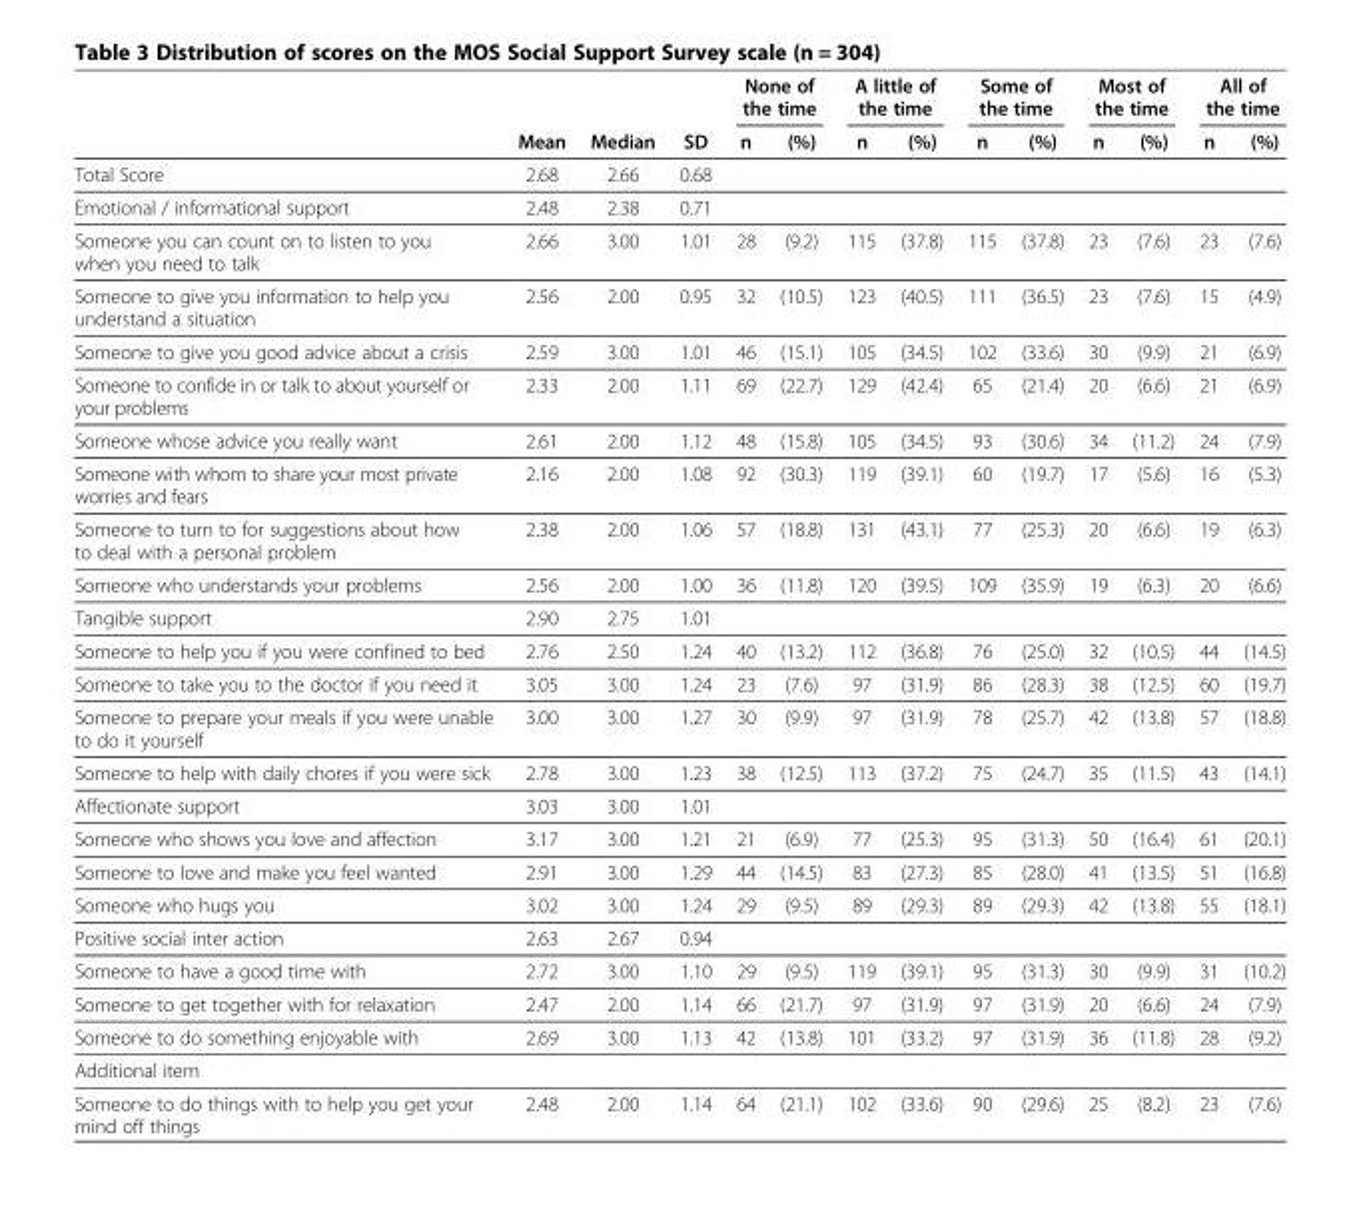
<table><thead><tr><td rowspan="2"></td><td rowspan="2">Mean</td><td rowspan="2">Median</td><td rowspan="2">SD</td><td colspan="2">None of the time</td><td colspan="2">A little of the time</td><td colspan="2">Some of the time</td><td colspan="2">Most of the time</td><td colspan="2">All of the time</td></tr><tr><td>n</td><td>(%)</td><td>n</td><td>(%)</td><td>n</td><td>(%)</td><td>n</td><td>(%)</td><td>n</td><td>(%)</td></tr></thead><tbody><tr><td>Total Score</td><td>2.68</td><td>2.66</td><td>0.68</td><td></td><td></td><td></td><td></td><td></td><td></td><td></td><td></td><td></td><td></td></tr><tr><td>Emotional / informational support</td><td>2.48</td><td>2.38</td><td>0.71</td><td></td><td></td><td></td><td></td><td></td><td></td><td></td><td></td><td></td><td></td></tr><tr><td>Someone you can count on to listen to you when you need to talk</td><td>2.66</td><td>3.00</td><td>1.01</td><td>28</td><td>(9.2)</td><td>115</td><td>(37.8)</td><td>115</td><td>(37.8)</td><td>23</td><td>(7.6)</td><td>23</td><td>(7.6)</td></tr><tr><td>Someone to give you information to help you understand a situation</td><td>2.56</td><td>2.00</td><td>0.95</td><td>32</td><td>(10.5)</td><td>123</td><td>(40.5)</td><td>111</td><td>(36.5)</td><td>23</td><td>(7.6)</td><td>15</td><td>(4.9)</td></tr><tr><td>Someone to give you good advice about a crisis</td><td>2.59</td><td>3.00</td><td>1.01</td><td>46</td><td>(15.1)</td><td>105</td><td>(34.5)</td><td>102</td><td>(33.6)</td><td>30</td><td>(9.9)</td><td>21</td><td>(6.9)</td></tr><tr><td>Someone to confide in or talk to about yourself or your problems</td><td>2.33</td><td>2.00</td><td>1.11</td><td>69</td><td>(22.7)</td><td>129</td><td>(42.4)</td><td>65</td><td>(21.4)</td><td>20</td><td>(6.6)</td><td>21</td><td>(6.9)</td></tr><tr><td>Someone whose advice you really want</td><td>2.61</td><td>2.00</td><td>1.12</td><td>48</td><td>(15.8)</td><td>105</td><td>(34.5)</td><td>93</td><td>(30.6)</td><td>34</td><td>(11.2)</td><td>24</td><td>(7.9)</td></tr><tr><td>Someone with whom to share your most private worries and fears</td><td>2.16</td><td>2.00</td><td>1.08</td><td>92</td><td>(30.3)</td><td>119</td><td>(39.1)</td><td>60</td><td>(19.7)</td><td>17</td><td>(5.6)</td><td>16</td><td>(5.3)</td></tr><tr><td>Someone to turn to for suggestions about how to deal with a personal problem</td><td>2.38</td><td>2.00</td><td>1.06</td><td>57</td><td>(18.8)</td><td>131</td><td>(43.1)</td><td>77</td><td>(25.3)</td><td>20</td><td>(6.6)</td><td>19</td><td>(6.3)</td></tr><tr><td>Someone who understands your problems</td><td>2.56</td><td>2.00</td><td>1.00</td><td>36</td><td>(11.8)</td><td>120</td><td>(39.5)</td><td>109</td><td>(35.9)</td><td>19</td><td>(6.3)</td><td>20</td><td>(6.6)</td></tr><tr><td>Tangible support</td><td>2.90</td><td>2.75</td><td>1.01</td><td></td><td></td><td></td><td></td><td></td><td></td><td></td><td></td><td></td><td></td></tr><tr><td>Someone to help you if you were confined to bed</td><td>2.76</td><td>2.50</td><td>1.24</td><td>40</td><td>(13.2)</td><td>112</td><td>(36.8)</td><td>76</td><td>(25.0)</td><td>32</td><td>(10.5)</td><td>44</td><td>(14.5)</td></tr><tr><td>Someone to take you to the doctor if you need it</td><td>3.05</td><td>3.00</td><td>1.24</td><td>23</td><td>(7.6)</td><td>97</td><td>(31.9)</td><td>86</td><td>(28.3)</td><td>38</td><td>(12.5)</td><td>60</td><td>(19.7)</td></tr><tr><td>Someone to prepare your meals if you were unable to do it yourself</td><td>3.00</td><td>3.00</td><td>1.27</td><td>30</td><td>(9.9)</td><td>97</td><td>(31.9)</td><td>78</td><td>(25.7)</td><td>42</td><td>(13.8)</td><td>57</td><td>(18.8)</td></tr><tr><td>Someone to help with daily chores if you were sick</td><td>2.78</td><td>3.00</td><td>1.23</td><td>38</td><td>(12.5)</td><td>113</td><td>(37.2)</td><td>75</td><td>(24.7)</td><td>35</td><td>(11.5)</td><td>43</td><td>(14.1)</td></tr><tr><td>Affectionate support</td><td>3.03</td><td>3.00</td><td>1.01</td><td></td><td></td><td></td><td></td><td></td><td></td><td></td><td></td><td></td><td></td></tr><tr><td>Someone who shows you love and affection</td><td>3.17</td><td>3.00</td><td>1.21</td><td>21</td><td>(6.9)</td><td>77</td><td>(25.3)</td><td>95</td><td>(31.3)</td><td>50</td><td>(16.4)</td><td>61</td><td>(20.1)</td></tr><tr><td>Someone to love and make you feel wanted</td><td>2.91</td><td>3.00</td><td>1.29</td><td>44</td><td>(14.5)</td><td>83</td><td>(27.3)</td><td>85</td><td>(28.0)</td><td>41</td><td>(13.5)</td><td>51</td><td>(16.8)</td></tr><tr><td>Someone who hugs you</td><td>3.02</td><td>3.00</td><td>1.24</td><td>29</td><td>(9.5)</td><td>89</td><td>(29.3)</td><td>89</td><td>(29.3)</td><td>42</td><td>(13.8)</td><td>55</td><td>(18.1)</td></tr><tr><td>Positive social inter action</td><td>2.63</td><td>2.67</td><td>0.94</td><td></td><td></td><td></td><td></td><td></td><td></td><td></td><td></td><td></td><td></td></tr><tr><td>Someone to have a good time with</td><td>2.72</td><td>3.00</td><td>1.10</td><td>29</td><td>(9.5)</td><td>119</td><td>(39.1)</td><td>95</td><td>(31.3)</td><td>30</td><td>(9.9)</td><td>31</td><td>(10.2)</td></tr><tr><td>Someone to get together with for relaxation</td><td>2.47</td><td>2.00</td><td>1.14</td><td>66</td><td>(21.7)</td><td>97</td><td>(31.9)</td><td>97</td><td>(31.9)</td><td>20</td><td>(6.6)</td><td>24</td><td>(7.9)</td></tr><tr><td>Someone to do something enjoyable with</td><td>2.69</td><td>3.00</td><td>1.13</td><td>42</td><td>(13.8)</td><td>101</td><td>(33.2)</td><td>97</td><td>(31.9)</td><td>36</td><td>(11.8)</td><td>28</td><td>(9.2)</td></tr><tr><td colspan="14">Additional item</td></tr><tr><td>Someone to do things with to help you get your mind off things</td><td>2.48</td><td>2.00</td><td>1.14</td><td>64</td><td>(21.1)</td><td>102</td><td>(33.6)</td><td>90</td><td>(29.6)</td><td>25</td><td>(8.2)</td><td>23</td><td>(7.6)</td></tr></tbody></table>